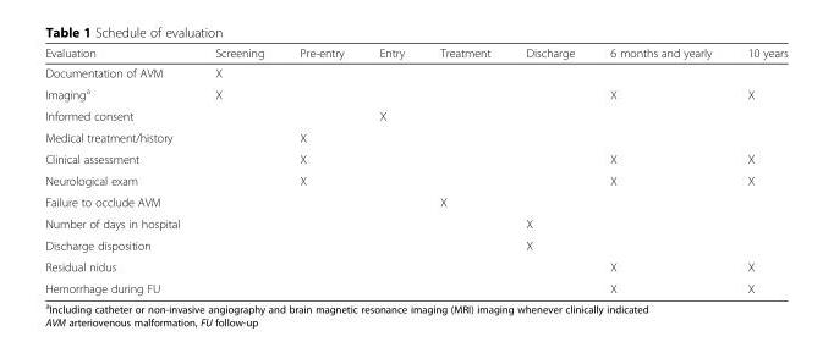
<table><thead><tr><td>Evaluation</td><td>Screening</td><td>Pre-entry</td><td>Entry</td><td>Treatment</td><td>Discharge</td><td>6 months and yearly</td><td>10 years</td></tr></thead><tbody><tr><td>Documentation of AVM</td><td>X</td><td></td><td></td><td></td><td></td><td></td><td></td></tr><tr><td>Imaging<sup>a</sup></td><td>X</td><td></td><td></td><td></td><td></td><td>X</td><td>X</td></tr><tr><td>Informed consent</td><td></td><td></td><td>X</td><td></td><td></td><td></td><td></td></tr><tr><td>Medical treatment/history</td><td></td><td>X</td><td></td><td></td><td></td><td></td><td></td></tr><tr><td>Clinical assessment</td><td></td><td>X</td><td></td><td></td><td></td><td>X</td><td>X</td></tr><tr><td>Neurological exam</td><td></td><td>X</td><td></td><td></td><td></td><td>X</td><td>X</td></tr><tr><td>Failure to occlude AVM</td><td></td><td></td><td></td><td>X</td><td></td><td></td><td></td></tr><tr><td>Number of days in hospital</td><td></td><td></td><td></td><td></td><td>X</td><td></td><td></td></tr><tr><td>Discharge disposition</td><td></td><td></td><td></td><td></td><td>X</td><td></td><td></td></tr><tr><td>Residual nidus</td><td></td><td></td><td></td><td></td><td></td><td>X</td><td>X</td></tr><tr><td>Hemorrhage during FU</td><td></td><td></td><td></td><td></td><td></td><td>X</td><td>X</td></tr></tbody></table>